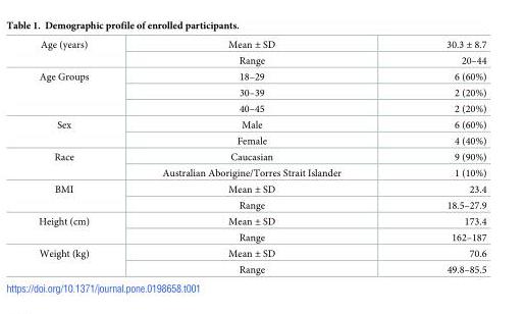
<table><tbody><tr><td rowspan="2">Age (years)</td><td>Mean ± SD</td><td>30.3 ± 8.7</td></tr><tr><td>Range</td><td>20–44</td></tr><tr><td rowspan="3">Age Groups</td><td>18–29</td><td>6 (60%)</td></tr><tr><td>30–39</td><td>2 (20%)</td></tr><tr><td>40–45</td><td>2 (20%)</td></tr><tr><td rowspan="2">Sex</td><td>Male</td><td>6 (60%)</td></tr><tr><td>Female</td><td>4 (40%)</td></tr><tr><td rowspan="2">Race</td><td>Caucasian</td><td>9 (90%)</td></tr><tr><td>Australian Aborigine/Torres Strait Islander</td><td>1 (10%)</td></tr><tr><td rowspan="2">BMI</td><td>Mean ± SD</td><td>23.4</td></tr><tr><td>Range</td><td>18.5–27.9</td></tr><tr><td rowspan="2">Height (cm)</td><td>Mean ± SD</td><td>173.4</td></tr><tr><td>Range</td><td>162–187</td></tr><tr><td rowspan="2">Weight (kg)</td><td>Mean ± SD</td><td>70.6</td></tr><tr><td>Range</td><td>49.8–85.5</td></tr></tbody></table>